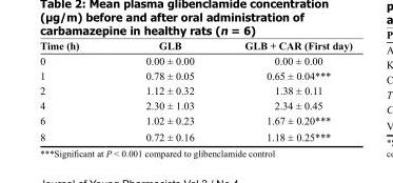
<table><thead><tr><td>Time (h)</td><td>GLB</td><td>GLB + CAR (First day)</td></tr></thead><tbody><tr><td>0</td><td>0.00 ± 0.00</td><td>0.00 ± 0.00</td></tr><tr><td>1</td><td>0.78 ± 0.05</td><td>0.65 ± 0.04***</td></tr><tr><td>2</td><td>1.12 ± 0.32</td><td>1.38 ± 0.11</td></tr><tr><td>4</td><td>2.30 ± 1.03</td><td>2.34 ± 0.45</td></tr><tr><td>6</td><td>1.02 ± 0.23</td><td>1.67 ± 0.20***</td></tr><tr><td>8</td><td>0.72 ± 0.16</td><td>1.18 ± 0.25***</td></tr></tbody></table>